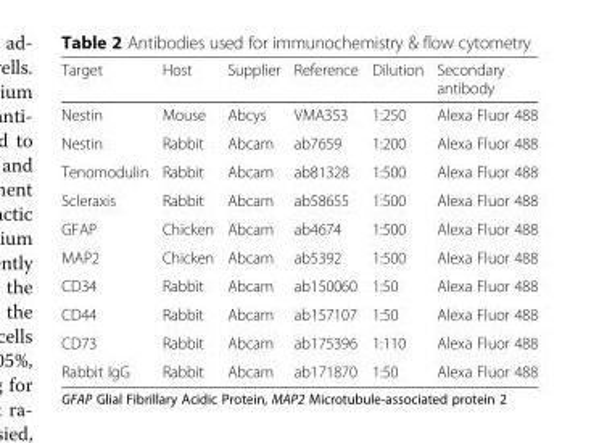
<table><thead><tr><td>Target</td><td>Host</td><td>Supplier</td><td>Reference</td><td>Dilution</td><td>Secondary antibody</td></tr></thead><tbody><tr><td>Nestin</td><td>Mouse</td><td>Abcys</td><td>VMA353</td><td>1:250</td><td>Alexa Fluor 488</td></tr><tr><td>Nestin</td><td>Rabbit</td><td>Abcam</td><td>ab7659</td><td>1:200</td><td>Alexa Fluor 488</td></tr><tr><td>Tenomodulin</td><td>Rabbit</td><td>Abcam</td><td>ab81328</td><td>1:500</td><td>Alexa Fluor 488</td></tr><tr><td>Scleraxis</td><td>Rabbit</td><td>Abcam</td><td>ab58655</td><td>1:500</td><td>Alexa Fluor 488</td></tr><tr><td>GFAP</td><td>Chicken</td><td>Abcam</td><td>ab4674</td><td>1:500</td><td>Alexa Fluor 488</td></tr><tr><td>MAP2</td><td>Chicken</td><td>Abcam</td><td>ab5392</td><td>1:500</td><td>Alexa Fluor 488</td></tr><tr><td>CD34</td><td>Rabbit</td><td>Abcam</td><td>ab150060</td><td>1:50</td><td>Alexa Fluor 488</td></tr><tr><td>CD44</td><td>Rabbit</td><td>Abcam</td><td>ab157107</td><td>1:50</td><td>Alexa Fluor 488</td></tr><tr><td>CD73</td><td>Rabbit</td><td>Abcam</td><td>ab175396</td><td>1:110</td><td>Alexa Fluor 488</td></tr><tr><td>Rabbit IgG</td><td>Rabbit</td><td>Abcam</td><td>ab171870</td><td>1:50</td><td>Alexa Fluor 488</td></tr></tbody></table>